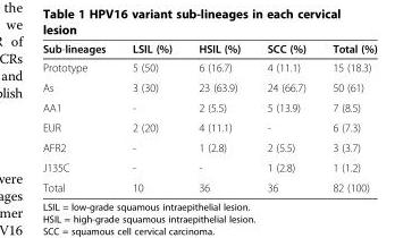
<table><thead><tr><td>Sub-lineages</td><td>LSIL (%)</td><td>HSIL (%)</td><td>SCC (%)</td><td>Total (%)</td></tr></thead><tbody><tr><td>Prototype</td><td>5 (50)</td><td>6 (16.7)</td><td>4 (11.1)</td><td>15 (18.3)</td></tr><tr><td>As</td><td>3 (30)</td><td>23 (63.9)</td><td>24 (66.7)</td><td>50 (61)</td></tr><tr><td>AA1</td><td>-</td><td>2 (5.5)</td><td>5 (13.9)</td><td>7 (8.5)</td></tr><tr><td>EUR</td><td>2 (20)</td><td>4 (11.1)</td><td>-</td><td>6 (7.3)</td></tr><tr><td>AFR2</td><td>-</td><td>1 (2.8)</td><td>2 (5.5)</td><td>3 (3.7)</td></tr><tr><td>J135C</td><td>-</td><td>-</td><td>1 (2.8)</td><td>1 (1.2)</td></tr><tr><td>Total</td><td>10</td><td>36</td><td>36</td><td>82 (100)</td></tr></tbody></table>